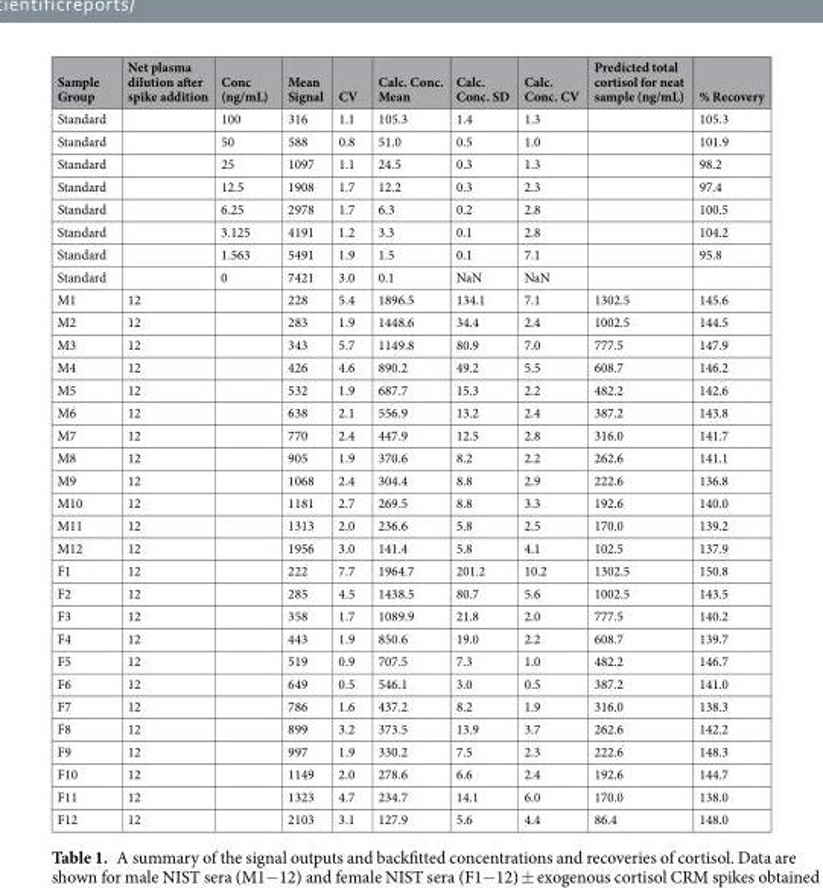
<table><thead><tr><td>Sample Group</td><td>Net plasma dilution after spike addition</td><td>Conc (ng/mL)</td><td>Mean Signal</td><td>CV</td><td>Calc. Conc. Mean</td><td>Calc. Conc. SD</td><td>Calc. Conc. CV</td><td>Predicted total cortisol for neat sample (ng/mL)</td><td>% Recovery</td></tr></thead><tbody><tr><td>Standard</td><td></td><td>100</td><td>316</td><td>1.1</td><td>105.3</td><td>1.4</td><td>1.3</td><td></td><td>105.3</td></tr><tr><td>Standard</td><td></td><td>50</td><td>588</td><td>0.8</td><td>51.0</td><td>0.5</td><td>1.0</td><td></td><td>101.9</td></tr><tr><td>Standard</td><td></td><td>25</td><td>1097</td><td>1.1</td><td>24.5</td><td>0.3</td><td>1.3</td><td></td><td>98.2</td></tr><tr><td>Standard</td><td></td><td>12.5</td><td>1908</td><td>1.7</td><td>12.2</td><td>0.3</td><td>2.3</td><td></td><td>97.4</td></tr><tr><td>Standard</td><td></td><td>6.25</td><td>2978</td><td>1.7</td><td>6.3</td><td>0.2</td><td>2.8</td><td></td><td>100.5</td></tr><tr><td>Standard</td><td></td><td>3.125</td><td>4191</td><td>1.2</td><td>3.3</td><td>0.1</td><td>2.8</td><td></td><td>104.2</td></tr><tr><td>Standard</td><td></td><td>1.563</td><td>5491</td><td>1.9</td><td>1.5</td><td>0.1</td><td>7.1</td><td></td><td>95.8</td></tr><tr><td>Standard</td><td></td><td>0</td><td>7421</td><td>3.0</td><td>0.1</td><td>NaN</td><td>NaN</td><td></td><td></td></tr><tr><td>M1</td><td>12</td><td></td><td>228</td><td>5.4</td><td>1896.5</td><td>134.1</td><td>7.1</td><td>1302.5</td><td>145.6</td></tr><tr><td>M2</td><td>12</td><td></td><td>283</td><td>1.9</td><td>1448.6</td><td>34.4</td><td>2.4</td><td>1002.5</td><td>144.5</td></tr><tr><td>M3</td><td>12</td><td></td><td>343</td><td>5.7</td><td>1149.8</td><td>80.9</td><td>7.0</td><td>777.5</td><td>147.9</td></tr><tr><td>M4</td><td>12</td><td></td><td>426</td><td>4.6</td><td>890.2</td><td>49.2</td><td>5.5</td><td>608.7</td><td>146.2</td></tr><tr><td>M5</td><td>12</td><td></td><td>532</td><td>1.9</td><td>687.7</td><td>15.3</td><td>2.2</td><td>482.2</td><td>142.6</td></tr><tr><td>M6</td><td>12</td><td></td><td>638</td><td>2.1</td><td>556.9</td><td>13.2</td><td>2.4</td><td>387.2</td><td>143.8</td></tr><tr><td>M7</td><td>12</td><td></td><td>770</td><td>2.4</td><td>447.9</td><td>12.5</td><td>2.8</td><td>316.0</td><td>141.7</td></tr><tr><td>M8</td><td>12</td><td></td><td>905</td><td>1.9</td><td>370.6</td><td>8.2</td><td>2.2</td><td>262.6</td><td>141.1</td></tr><tr><td>M9</td><td>12</td><td></td><td>1068</td><td>2.4</td><td>304.4</td><td>8.8</td><td>2.9</td><td>222.6</td><td>136.8</td></tr><tr><td>M10</td><td>12</td><td></td><td>1181</td><td>2.7</td><td>269.5</td><td>8.8</td><td>3.3</td><td>192.6</td><td>140.0</td></tr><tr><td>M11</td><td>12</td><td></td><td>1313</td><td>2.0</td><td>236.6</td><td>5.8</td><td>2.5</td><td>170.0</td><td>139.2</td></tr><tr><td>M12</td><td>12</td><td></td><td>1956</td><td>3.0</td><td>141.4</td><td>5.8</td><td>4.1</td><td>102.5</td><td>137.9</td></tr><tr><td>F1</td><td>12</td><td></td><td>222</td><td>7.7</td><td>1964.7</td><td>201.2</td><td>10.2</td><td>1302.5</td><td>150.8</td></tr><tr><td>F2</td><td>12</td><td></td><td>285</td><td>4.5</td><td>1438.5</td><td>80.7</td><td>5.6</td><td>1002.5</td><td>143.5</td></tr><tr><td>F3</td><td>12</td><td></td><td>358</td><td>1.7</td><td>1089.9</td><td>21.8</td><td>2.0</td><td>777.5</td><td>140.2</td></tr><tr><td>F4</td><td>12</td><td></td><td>443</td><td>1.9</td><td>850.6</td><td>19.0</td><td>2.2</td><td>608.7</td><td>139.7</td></tr><tr><td>F5</td><td>12</td><td></td><td>519</td><td>0.9</td><td>707.5</td><td>7.3</td><td>1.0</td><td>482.2</td><td>146.7</td></tr><tr><td>F6</td><td>12</td><td></td><td>649</td><td>0.5</td><td>546.1</td><td>3.0</td><td>0.5</td><td>387.2</td><td>141.0</td></tr><tr><td>F7</td><td>12</td><td></td><td>786</td><td>1.6</td><td>437.2</td><td>8.2</td><td>1.9</td><td>316.0</td><td>138.3</td></tr><tr><td>F8</td><td>12</td><td></td><td>899</td><td>3.2</td><td>373.5</td><td>13.9</td><td>3.7</td><td>262.6</td><td>142.2</td></tr><tr><td>F9</td><td>12</td><td></td><td>997</td><td>1.9</td><td>330.2</td><td>7.5</td><td>2.3</td><td>222.6</td><td>148.3</td></tr><tr><td>F10</td><td>12</td><td></td><td>1149</td><td>2.0</td><td>278.6</td><td>6.6</td><td>2.4</td><td>192.6</td><td>144.7</td></tr><tr><td>F11</td><td>12</td><td></td><td>1323</td><td>4.7</td><td>234.7</td><td>14.1</td><td>6.0</td><td>170.0</td><td>138.0</td></tr><tr><td>F12</td><td>12</td><td></td><td>2103</td><td>3.1</td><td>127.9</td><td>5.6</td><td>4.4</td><td>86.4</td><td>148.0</td></tr></tbody></table>